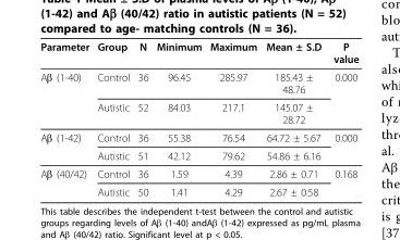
<table><thead><tr><td>Parameter</td><td>Group</td><td>N</td><td>Minimum</td><td>Maximum</td><td>Mean ± S.D</td><td>P value</td></tr></thead><tbody><tr><td rowspan="2">Aβ (1-40)</td><td>Control</td><td>36</td><td>96.45</td><td>285.97</td><td>185.43 ± 48.76</td><td>0.000</td></tr><tr><td>Autistic</td><td>52</td><td>84.03</td><td>217.1</td><td>145.07 ± 28.72</td><td></td></tr><tr><td rowspan="2">Aβ (1-42)</td><td>Control</td><td>36</td><td>55.38</td><td>76.54</td><td>64.72 ± 5.67</td><td>0.000</td></tr><tr><td>Autistic</td><td>51</td><td>42.12</td><td>79.62</td><td>54.86 ± 6.16</td><td></td></tr><tr><td rowspan="2">Aβ (40/42)</td><td>Control</td><td>36</td><td>1.59</td><td>4.39</td><td>2.86 ± 0.71</td><td>0.168</td></tr><tr><td>Autistic</td><td>50</td><td>1.41</td><td>4.29</td><td>2.67 ± 0.58</td><td></td></tr></tbody></table>